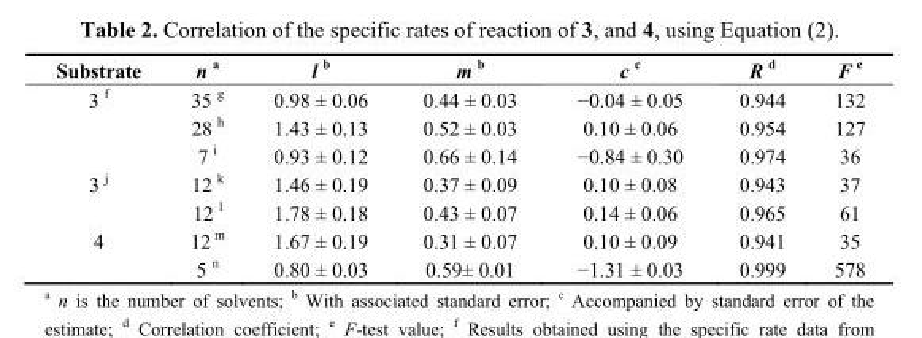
<table><thead><tr><td>Substrate</td><td>n <sup>a</sup></td><td>l <sup>b</sup></td><td>m <sup>b</sup></td><td>c <sup>c</sup></td><td>R <sup>d</sup></td><td>F <sup>e</sup></td></tr></thead><tbody><tr><td rowspan="3">3 f</td><td>35 g</td><td>0.98 ± 0.06</td><td>0.44 ± 0.03</td><td>−0.04 ± 0.05</td><td>0.944</td><td>132</td></tr><tr><td>28 h</td><td>1.43 ± 0.13</td><td>0.52 ± 0.03</td><td>0.10 ± 0.06</td><td>0.954</td><td>127</td></tr><tr><td>7 i</td><td>0.93 ± 0.12</td><td>0.66 ± 0.14</td><td>−0.84 ± 0.30</td><td>0.974</td><td>36</td></tr><tr><td rowspan="2">3 j</td><td>12 k</td><td>1.46 ± 0.19</td><td>0.37 ± 0.09</td><td>0.10 ± 0.08</td><td>0.943</td><td>37</td></tr><tr><td>12 l</td><td>1.78 ± 0.18</td><td>0.43 ± 0.07</td><td>0.14 ± 0.06</td><td>0.965</td><td>61</td></tr><tr><td rowspan="2">4</td><td>12 m</td><td>1.67 ± 0.19</td><td>0.31 ± 0.07</td><td>0.10 ± 0.09</td><td>0.941</td><td>35</td></tr><tr><td>5 n</td><td>0.80 ± 0.03</td><td>0.59± 0.01</td><td>−1.31 ± 0.03</td><td>0.999</td><td>578</td></tr></tbody></table>